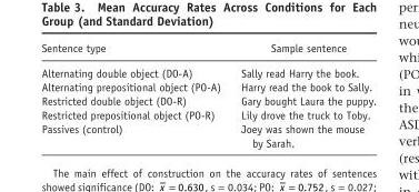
<table><thead><tr><td>Sentence type</td><td>Sample sentence</td></tr></thead><tbody><tr><td>Alternating double object (DO-A)</td><td>Sally read Harry the book.</td></tr><tr><td>Alternating prepositional object (PO-A)</td><td>Harry read the book to Sally.</td></tr><tr><td>Restricted double object (DO-R)</td><td>Gary bought Laura the puppy.</td></tr><tr><td>Restricted prepositional object (PO-R)</td><td>Lily drove the truck to Toby.</td></tr><tr><td>Passives (control)</td><td>Joey was shown the mouse by Sarah.</td></tr></tbody></table>